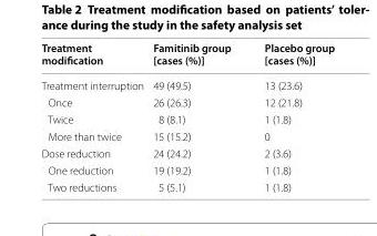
<table><thead><tr><td>Treatment modification</td><td>Famitinib group [cases (%)]</td><td>Placebo group [cases (%)]</td></tr></thead><tbody><tr><td>Treatment interruption</td><td>49 (49.5)</td><td>13 (23.6)</td></tr><tr><td>Once</td><td>26 (26.3)</td><td>12 (21.8)</td></tr><tr><td>Twice</td><td>8 (8.1)</td><td>1 (1.8)</td></tr><tr><td>More than twice</td><td>15 (15.2)</td><td>0</td></tr><tr><td>Dose reduction</td><td>24 (24.2)</td><td>2 (3.6)</td></tr><tr><td>One reduction</td><td>19 (19.2)</td><td>1 (1.8)</td></tr><tr><td>Two reductions</td><td>5 (5.1)</td><td>1 (1.8)</td></tr></tbody></table>